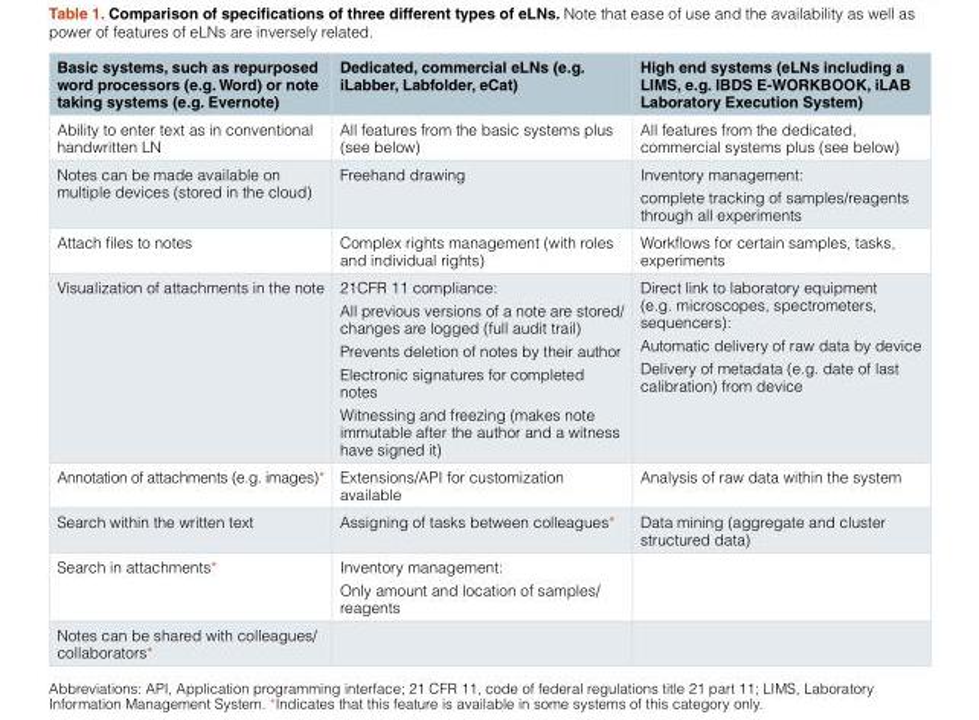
<table><thead><tr><td>Basic systems, such as repurposed word processors (e.g. Word) or note taking systems (e.g. Evernote)</td><td>Dedicated, commercial eLNs (e.g. iLabber, Labfolder, eCat)</td><td>High end systems (eLNs including a LIMS, e.g. IBDS E-WORKBOOK, iLAB Laboratory Execution System)</td></tr></thead><tbody><tr><td>Ability to enter text as in conventional handwritten LN</td><td>All features from the basic systems plus (see below)</td><td>All features from the dedicated, commercial systems plus (see below)</td></tr><tr><td>Notes can be made available on multiple devices (stored in the cloud)</td><td>Freehand drawing</td><td>Inventory management: complete tracking of samples/reagents through all experiments</td></tr><tr><td>Attach files to notes</td><td>Complex rights management (with roles and individual rights)</td><td>Workflows for certain samples, tasks, experiments</td></tr><tr><td>Visualization of attachments in the note</td><td>21CFR 11 compliance: All previous versions of a note are stored/ changes are logged (full audit trail) Prevents deletion of notes by their author Electronic signatures for completed notes Witnessing and freezing (makes note immutable after the author and a witness have signed it)</td><td>Direct link to laboratory equipment (e.g. microscopes, spectrometers, sequencers): Automatic delivery of raw data by device Delivery of metadata (e.g. date of last calibration) from device</td></tr><tr><td>Annotation of attachments (e.g. images)*</td><td>Extensions/API for customization available</td><td>Analysis of raw data within the system</td></tr><tr><td>Search within the written text</td><td>Assigning of tasks between colleagues*</td><td>Data mining (aggregate and cluster structured data)</td></tr><tr><td>Search in attachments*</td><td>Inventory management: Only amount and location of samples/ reagents</td><td></td></tr><tr><td>Notes can be shared with colleagues/ collaborators*</td><td></td><td></td></tr></tbody></table>